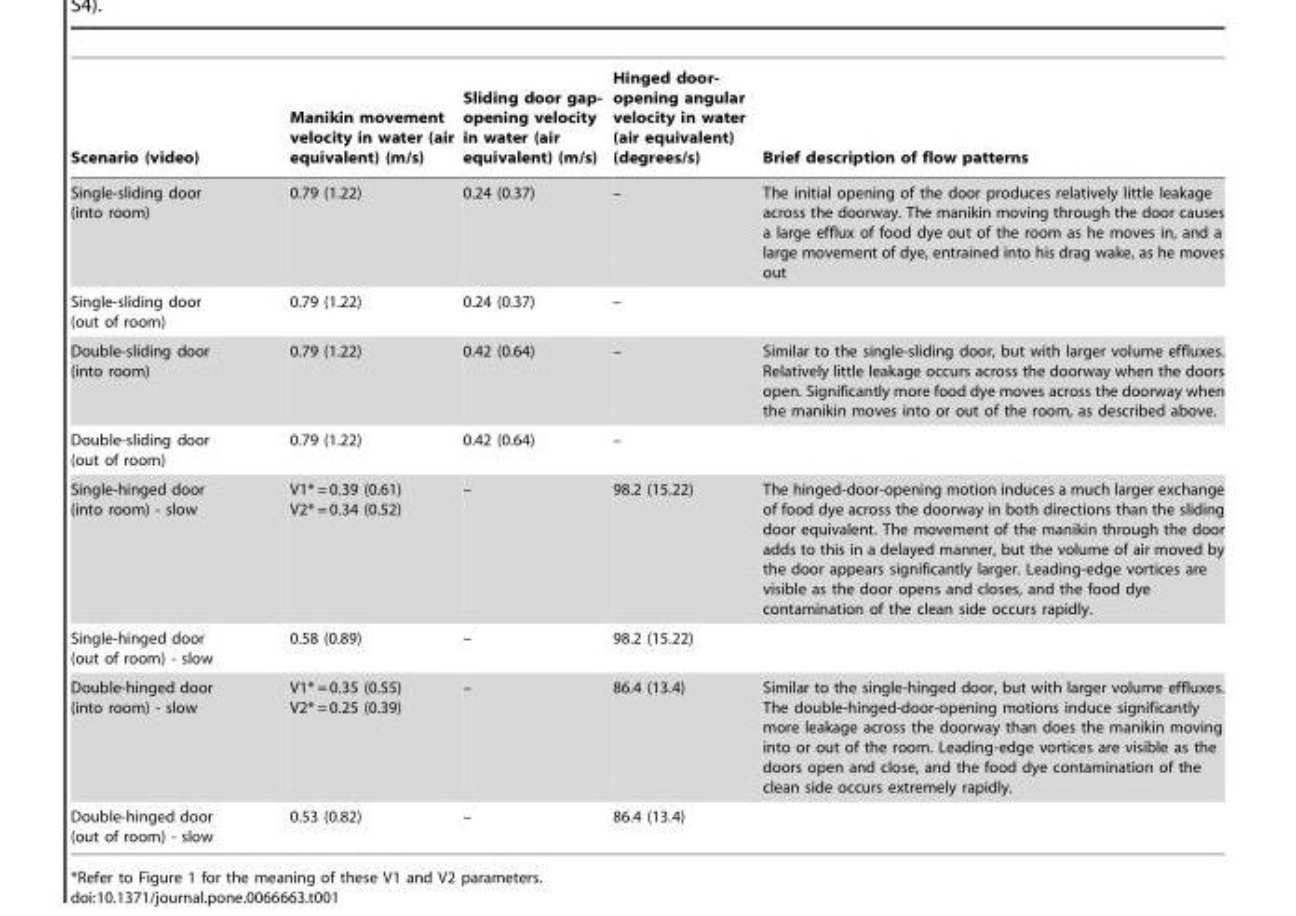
<table><thead><tr><td>Scenario (video)</td><td>Manikin movement velocity in water (air equivalent) (m/s)</td><td>Sliding door gap- opening velocity in water (air equivalent) (m/s)</td><td>Hinged door- opening angular velocity in water (air equivalent) (degrees/s)</td><td>Brief description of flow patterns</td></tr></thead><tbody><tr><td>Single-sliding door (into room)</td><td>0.79 (1.22)</td><td>0.24 (0.37)</td><td>–</td><td>The initial opening of the door produces relatively little leakage across the doorway. The manikin moving through the door causes a large efflux of food dye out of the room as he moves in, and a large movement of dye, entrained into his drag wake, as he moves out</td></tr><tr><td>Single-sliding door (out of room)</td><td>0.79 (1.22)</td><td>0.24 (0.37)</td><td>–</td><td></td></tr><tr><td>Double-sliding door (into room)</td><td>0.79 (1.22)</td><td>0.42 (0.64)</td><td>–</td><td>Similar to the single-sliding door, but with larger volume effluxes. Relatively little leakage occurs across the doorway when the doors open. Significantly more food dye moves across the doorway when the manikin moves into or out of the room, as described above.</td></tr><tr><td>Double-sliding door (out of room)</td><td>0.79 (1.22)</td><td>0.42 (0.64)</td><td>–</td><td></td></tr><tr><td>Single-hinged door (into room) - slow</td><td>V1* = 0.39 (0.61) V2* = 0.34 (0.52)</td><td>–</td><td>98.2 (15.22)</td><td>The hinged-door-opening motion induces a much larger exchange of food dye across the doorway in both directions than the sliding door equivalent. The movement of the manikin through the door adds to this in a delayed manner, but the volume of air moved by the door appears significantly larger. Leading-edge vortices are visible as the door opens and closes, and the food dye contamination of the clean side occurs rapidly.</td></tr><tr><td>Single-hinged door (out of room) - slow</td><td>0.58 (0.89)</td><td>–</td><td>98.2 (15.22)</td><td></td></tr><tr><td>Double-hinged door (into room) - slow</td><td>V1* = 0.35 (0.55) V2* = 0.25 (0.39)</td><td>–</td><td>86.4 (13.4)</td><td>Similar to the single-hinged door, but with larger volume effluxes. The double-hinged-door-opening motions induce significantly more leakage across the doorway than does the manikin moving into or out of the room. Leading-edge vortices are visible as the doors open and close, and the food dye contamination of the clean side occurs extremely rapidly.</td></tr><tr><td>Double-hinged door (out of room) - slow</td><td>0.53 (0.82)</td><td>–</td><td>86.4 (13.4)</td><td></td></tr></tbody></table>